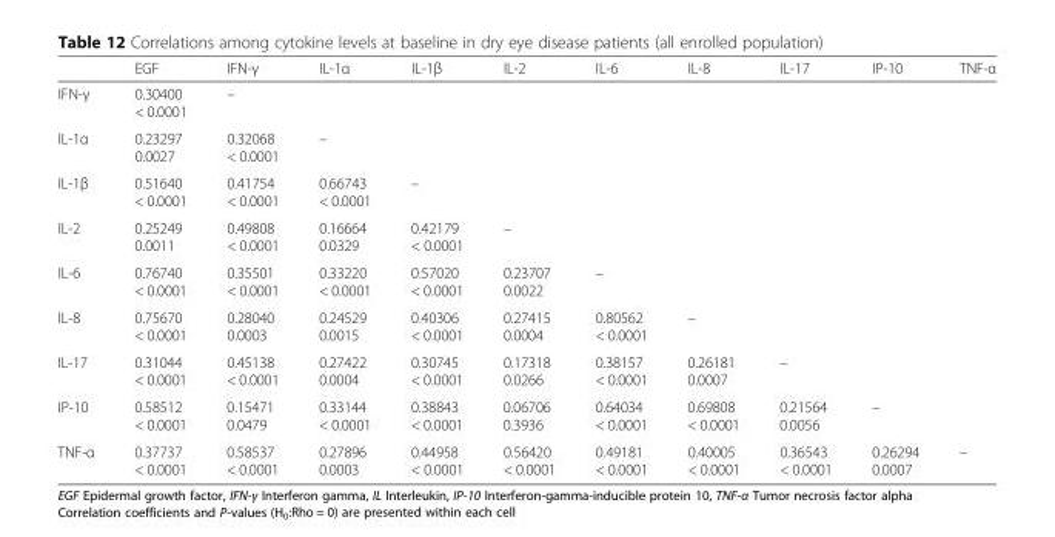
<table><thead><tr><td></td><td>EGF</td><td>IFN-γ</td><td>IL-1α</td><td>IL-1β</td><td>IL-2</td><td>IL-6</td><td>IL-8</td><td>IL-17</td><td>IP-10</td><td>TNF-α</td></tr></thead><tbody><tr><td>IFN-γ</td><td>0.30400 &lt; 0.0001</td><td>–</td><td></td><td></td><td></td><td></td><td></td><td></td><td></td><td></td></tr><tr><td>IL-1α</td><td>0.23297 0.0027</td><td>0.32068 &lt; 0.0001</td><td>–</td><td></td><td></td><td></td><td></td><td></td><td></td><td></td></tr><tr><td>IL-1β</td><td>0.51640 &lt; 0.0001</td><td>0.41754 &lt; 0.0001</td><td>0.66743 &lt; 0.0001</td><td>–</td><td></td><td></td><td></td><td></td><td></td><td></td></tr><tr><td>IL-2</td><td>0.25249 0.0011</td><td>0.49808 &lt; 0.0001</td><td>0.16664 0.0329</td><td>0.42179 &lt; 0.0001</td><td>–</td><td></td><td></td><td></td><td></td><td></td></tr><tr><td>IL-6</td><td>0.76740 &lt; 0.0001</td><td>0.35501 &lt; 0.0001</td><td>0.33220 &lt; 0.0001</td><td>0.57020 &lt; 0.0001</td><td>0.23707 0.0022</td><td>–</td><td></td><td></td><td></td><td></td></tr><tr><td>IL-8</td><td>0.75670 &lt; 0.0001</td><td>0.28040 0.0003</td><td>0.24529 0.0015</td><td>0.40306 &lt; 0.0001</td><td>0.27415 0.0004</td><td>0.80562 &lt; 0.0001</td><td>–</td><td></td><td></td><td></td></tr><tr><td>IL-17</td><td>0.31044 &lt; 0.0001</td><td>0.45138 &lt; 0.0001</td><td>0.27422 0.0004</td><td>0.30745 &lt; 0.0001</td><td>0.17318 0.0266</td><td>0.38157 &lt; 0.0001</td><td>0.26181 0.0007</td><td>–</td><td></td><td></td></tr><tr><td>IP-10</td><td>0.58512 &lt; 0.0001</td><td>0.15471 0.0479</td><td>0.33144 &lt; 0.0001</td><td>0.38843 &lt; 0.0001</td><td>0.06706 0.3936</td><td>0.64034 &lt; 0.0001</td><td>0.69808 &lt; 0.0001</td><td>0.21564 0.0056</td><td>–</td><td></td></tr><tr><td>TNF-α</td><td>0.37737 &lt; 0.0001</td><td>0.58537 &lt; 0.0001</td><td>0.27896 0.0003</td><td>0.44958 &lt; 0.0001</td><td>0.56420 &lt; 0.0001</td><td>0.49181 &lt; 0.0001</td><td>0.40005 &lt; 0.0001</td><td>0.36543 &lt; 0.0001</td><td>0.26294 0.0007</td><td>–</td></tr></tbody></table>